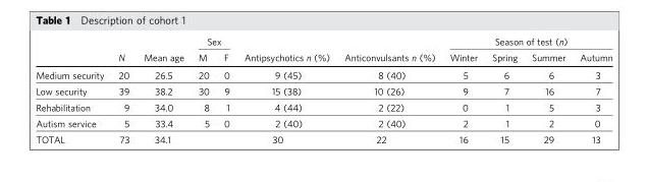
<table><thead><tr><td rowspan="2"></td><td rowspan="2">N</td><td rowspan="2">Mean age</td><td colspan="2">Sex</td><td rowspan="2">Antipsychotics n (%)</td><td rowspan="2">Anticonvulsants n (%)</td><td colspan="4">Season of test (n)</td></tr><tr><td>M</td><td>F</td><td>Winter</td><td>Spring</td><td>Summer</td><td>Autumn</td></tr></thead><tbody><tr><td>Medium security</td><td>20</td><td>26.5</td><td>20</td><td>0</td><td>9 (45)</td><td>8 (40)</td><td>5</td><td>6</td><td>6</td><td>3</td></tr><tr><td>Low security</td><td>39</td><td>38.2</td><td>30</td><td>9</td><td>15 (38)</td><td>10 (26)</td><td>9</td><td>7</td><td>16</td><td>7</td></tr><tr><td>Rehabilitation</td><td>9</td><td>34.0</td><td>8</td><td>1</td><td>4 (44)</td><td>2 (22)</td><td>0</td><td>1</td><td>5</td><td>3</td></tr><tr><td>Autism service</td><td>5</td><td>33.4</td><td>5</td><td>0</td><td>2 (40)</td><td>2 (40)</td><td>2</td><td>1</td><td>2</td><td>0</td></tr><tr><td>TOTAL</td><td>73</td><td>34.1</td><td></td><td></td><td>30</td><td>22</td><td>16</td><td>15</td><td>29</td><td>13</td></tr></tbody></table>